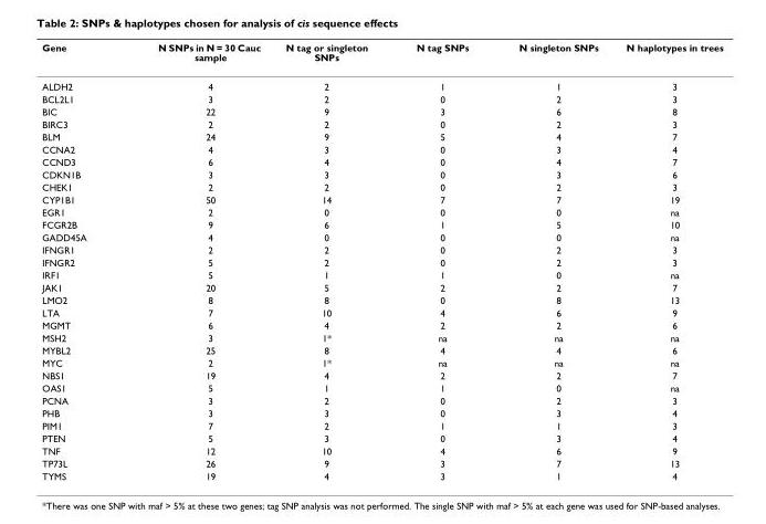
<table><thead><tr><td>Gene</td><td>N SNPs in N = 30 Cauc sample</td><td>N tag or singleton SNPs</td><td>N tag SNPs</td><td>N singleton SNPs</td><td>N haplotypes in trees</td></tr></thead><tbody><tr><td>ALDH2</td><td>4</td><td>2</td><td>1</td><td>1</td><td>3</td></tr><tr><td>BCL2L1</td><td>3</td><td>2</td><td>0</td><td>2</td><td>3</td></tr><tr><td>BIC</td><td>22</td><td>9</td><td>3</td><td>6</td><td>8</td></tr><tr><td>BIRC3</td><td>2</td><td>2</td><td>0</td><td>2</td><td>3</td></tr><tr><td>BLM</td><td>24</td><td>9</td><td>5</td><td>4</td><td>7</td></tr><tr><td>CCNA2</td><td>4</td><td>3</td><td>0</td><td>3</td><td>4</td></tr><tr><td>CCND3</td><td>6</td><td>4</td><td>0</td><td>4</td><td>7</td></tr><tr><td>CDKN1B</td><td>3</td><td>3</td><td>0</td><td>3</td><td>6</td></tr><tr><td>CHEK1</td><td>2</td><td>2</td><td>0</td><td>2</td><td>3</td></tr><tr><td>CYP1B1</td><td>50</td><td>14</td><td>7</td><td>7</td><td>19</td></tr><tr><td>EGR1</td><td>2</td><td>0</td><td>0</td><td>0</td><td>na</td></tr><tr><td>FCGR2B</td><td>9</td><td>6</td><td>1</td><td>5</td><td>10</td></tr><tr><td>GADD45A</td><td>4</td><td>0</td><td>0</td><td>0</td><td>na</td></tr><tr><td>IFNGR1</td><td>2</td><td>2</td><td>0</td><td>2</td><td>3</td></tr><tr><td>IFNGR2</td><td>5</td><td>2</td><td>0</td><td>2</td><td>3</td></tr><tr><td>IRF1</td><td>5</td><td>1</td><td>1</td><td>0</td><td>na</td></tr><tr><td>JAK1</td><td>20</td><td>5</td><td>2</td><td>2</td><td>7</td></tr><tr><td>LMO2</td><td>8</td><td>8</td><td>0</td><td>8</td><td>13</td></tr><tr><td>LTA</td><td>7</td><td>10</td><td>4</td><td>6</td><td>9</td></tr><tr><td>MGMT</td><td>6</td><td>4</td><td>2</td><td>2</td><td>6</td></tr><tr><td>MSH2</td><td>3</td><td>1*</td><td>na</td><td>na</td><td>na</td></tr><tr><td>MYBL2</td><td>25</td><td>8</td><td>4</td><td>4</td><td>6</td></tr><tr><td>MYC</td><td>2</td><td>1*</td><td>na</td><td>na</td><td>na</td></tr><tr><td>NBS1</td><td>19</td><td>4</td><td>2</td><td>2</td><td>7</td></tr><tr><td>OAS1</td><td>5</td><td>1</td><td>1</td><td>0</td><td>na</td></tr><tr><td>PCNA</td><td>3</td><td>2</td><td>0</td><td>2</td><td>3</td></tr><tr><td>PHB</td><td>3</td><td>3</td><td>0</td><td>3</td><td>4</td></tr><tr><td>PIM1</td><td>7</td><td>2</td><td>1</td><td>1</td><td>3</td></tr><tr><td>PTEN</td><td>5</td><td>3</td><td>0</td><td>3</td><td>4</td></tr><tr><td>TNF</td><td>12</td><td>10</td><td>4</td><td>6</td><td>9</td></tr><tr><td>TP73L</td><td>26</td><td>9</td><td>3</td><td>7</td><td>13</td></tr><tr><td>TYMS</td><td>19</td><td>4</td><td>3</td><td>1</td><td>4</td></tr></tbody></table>